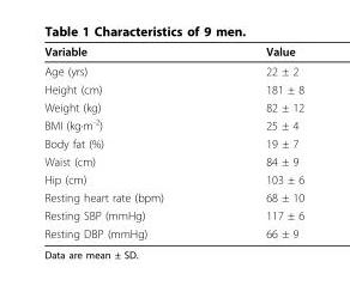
<table><thead><tr><td>Variable</td><td>Value</td></tr></thead><tbody><tr><td>Age (yrs)</td><td>22 ± 2</td></tr><tr><td>Height (cm)</td><td>181 ± 8</td></tr><tr><td>Weight (kg)</td><td>82 ± 12</td></tr><tr><td>BMI (kg·m<sup>-2</sup>)</td><td>25 ± 4</td></tr><tr><td>Body fat (%)</td><td>19 ± 7</td></tr><tr><td>Waist (cm)</td><td>84 ± 9</td></tr><tr><td>Hip (cm)</td><td>103 ± 6</td></tr><tr><td>Resting heart rate (bpm)</td><td>68 ± 10</td></tr><tr><td>Resting SBP (mmHg)</td><td>117 ± 6</td></tr><tr><td>Resting DBP (mmHg)</td><td>66 ± 9</td></tr></tbody></table>